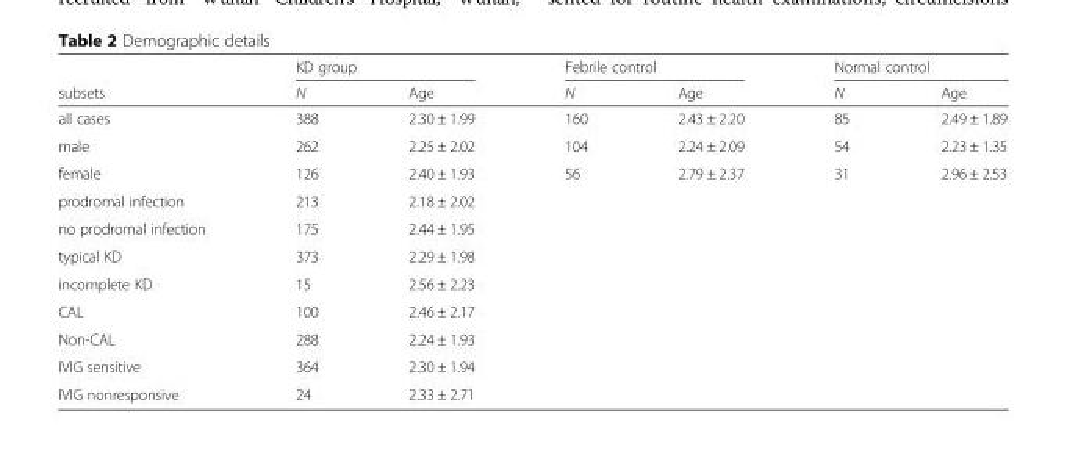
<table><thead><tr><td rowspan="2">subsets</td><td colspan="2">KD group</td><td colspan="2">Febrile control</td><td colspan="2">Normal control</td></tr><tr><td>N</td><td>Age</td><td>N</td><td>Age</td><td>N</td><td>Age</td></tr></thead><tbody><tr><td>all cases</td><td>388</td><td>2.30 ± 1.99</td><td>160</td><td>2.43 ± 2.20</td><td>85</td><td>2.49 ± 1.89</td></tr><tr><td>male</td><td>262</td><td>2.25 ± 2.02</td><td>104</td><td>2.24 ± 2.09</td><td>54</td><td>2.23 ± 1.35</td></tr><tr><td>female</td><td>126</td><td>2.40 ± 1.93</td><td>56</td><td>2.79 ± 2.37</td><td>31</td><td>2.96 ± 2.53</td></tr><tr><td>prodromal infection</td><td>213</td><td>2.18 ± 2.02</td><td></td><td></td><td></td><td></td></tr><tr><td>no prodromal infection</td><td>175</td><td>2.44 ± 1.95</td><td></td><td></td><td></td><td></td></tr><tr><td>typical KD</td><td>373</td><td>2.29 ± 1.98</td><td></td><td></td><td></td><td></td></tr><tr><td>incomplete KD</td><td>15</td><td>2.56 ± 2.23</td><td></td><td></td><td></td><td></td></tr><tr><td>CAL</td><td>100</td><td>2.46 ± 2.17</td><td></td><td></td><td></td><td></td></tr><tr><td>Non-CAL</td><td>288</td><td>2.24 ± 1.93</td><td></td><td></td><td></td><td></td></tr><tr><td>IVIG sensitive</td><td>364</td><td>2.30 ± 1.94</td><td></td><td></td><td></td><td></td></tr><tr><td>IVIG nonresponsive</td><td>24</td><td>2.33 ± 2.71</td><td></td><td></td><td></td><td></td></tr></tbody></table>